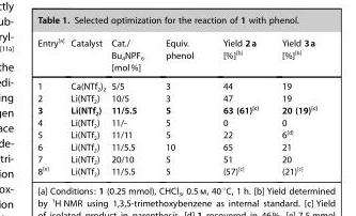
<table><thead><tr><td>Entry<sup>[a]</sup></td><td>Catalyst</td><td>Cat./ Bu<sub>4</sub>NPF<sub>6</sub> [mol%]</td><td>Equiv. phenol</td><td>Yield 2a [%]<sup>[b]</sup></td><td>Yield 3a [%]<sup>[b]</sup></td></tr></thead><tbody><tr><td>1</td><td>Ca(NTf<sub>2</sub>)<sub>2</sub></td><td>5/5</td><td>3</td><td>44</td><td>19</td></tr><tr><td>2</td><td>Li(NTf<sub>2</sub>)</td><td>10/5</td><td>3</td><td>47</td><td>19</td></tr><tr><td>3</td><td>Li(NTf<sub>2</sub>)</td><td>11/5.5</td><td>5</td><td>63 (61)<sup>[c]</sup></td><td>20 (19)<sup>[c]</sup></td></tr><tr><td>4</td><td>Li(NTf<sub>2</sub>)</td><td>11/-</td><td>5</td><td>0</td><td>0</td></tr><tr><td>5</td><td>Li(NTf<sub>2</sub>)</td><td>11/11</td><td>5</td><td>22</td><td>6<sup>[d]</sup></td></tr><tr><td>6</td><td>Li(NTf<sub>2</sub>)</td><td>11/5.5</td><td>10</td><td>65</td><td>21</td></tr><tr><td>7</td><td>Li(NTf<sub>2</sub>)</td><td>20/10</td><td>5</td><td>51</td><td>20</td></tr><tr><td>8<sup>[e]</sup></td><td>Li(NTf<sub>2</sub>)</td><td>11/5.5</td><td>5</td><td>(57)<sup>[c]</sup></td><td>(21)<sup>[c]</sup></td></tr></tbody></table>